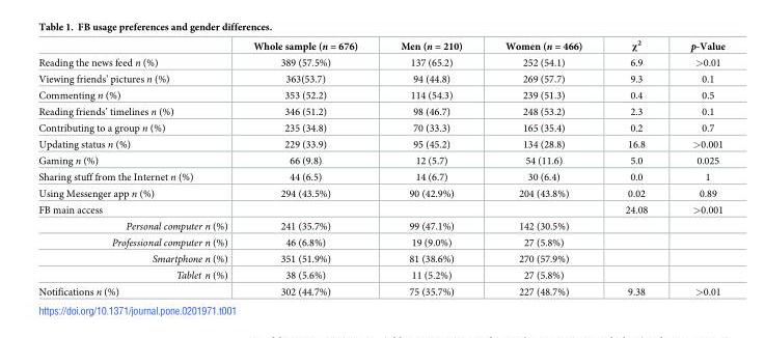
<table><thead><tr><td></td><td>Whole sample (n = 676)</td><td>Men (n = 210)</td><td>Women (n = 466)</td><td>χ<sup>2</sup></td><td>p-Value</td></tr></thead><tbody><tr><td>Reading the news feed n (%)</td><td>389 (57.5%)</td><td>137 (65.2)</td><td>252 (54.1)</td><td>6.9</td><td>&gt;0.01</td></tr><tr><td>Viewing friends’ pictures n (%)</td><td>363(53.7)</td><td>94 (44.8)</td><td>269 (57.7)</td><td>9.3</td><td>0.1</td></tr><tr><td>Commenting n (%)</td><td>353 (52.2)</td><td>114 (54.3)</td><td>239 (51.3)</td><td>0.4</td><td>0.5</td></tr><tr><td>Reading friends’ timelines n (%)</td><td>346 (51.2)</td><td>98 (46.7)</td><td>248 (53.2)</td><td>2.3</td><td>0.1</td></tr><tr><td>Contributing to a group n (%)</td><td>235 (34.8)</td><td>70 (33.3)</td><td>165 (35.4)</td><td>0.2</td><td>0.7</td></tr><tr><td>Updating status n (%)</td><td>229 (33.9)</td><td>95 (45.2)</td><td>134 (28.8)</td><td>16.8</td><td>&gt;0.001</td></tr><tr><td>Gaming n (%)</td><td>66 (9.8)</td><td>12 (5.7)</td><td>54 (11.6)</td><td>5.0</td><td>0.025</td></tr><tr><td>Sharing stuff from the Internet n (%)</td><td>44 (6.5)</td><td>14 (6.7)</td><td>30 (6.4)</td><td>0.0</td><td>1</td></tr><tr><td>Using Messenger app n (%)</td><td>294 (43.5%)</td><td>90 (42.9%)</td><td>204 (43.8%)</td><td>0.02</td><td>0.89</td></tr><tr><td>FB main access</td><td></td><td></td><td></td><td>24.08</td><td>&gt;0.001</td></tr><tr><td>Personal computer n (%)</td><td>241 (35.7%)</td><td>99 (47.1%)</td><td>142 (30.5%)</td><td></td><td></td></tr><tr><td>Professional computer n (%)</td><td>46 (6.8%)</td><td>19 (9.0%)</td><td>27 (5.8%)</td><td></td><td></td></tr><tr><td>Smartphone n (%)</td><td>351 (51.9%)</td><td>81 (38.6%)</td><td>270 (57.9%)</td><td></td><td></td></tr><tr><td>Tablet n (%)</td><td>38 (5.6%)</td><td>11 (5.2%)</td><td>27 (5.8%)</td><td></td><td></td></tr><tr><td>Notifications n (%)</td><td>302 (44.7%)</td><td>75 (35.7%)</td><td>227 (48.7%)</td><td>9.38</td><td>&gt;0.01</td></tr></tbody></table>